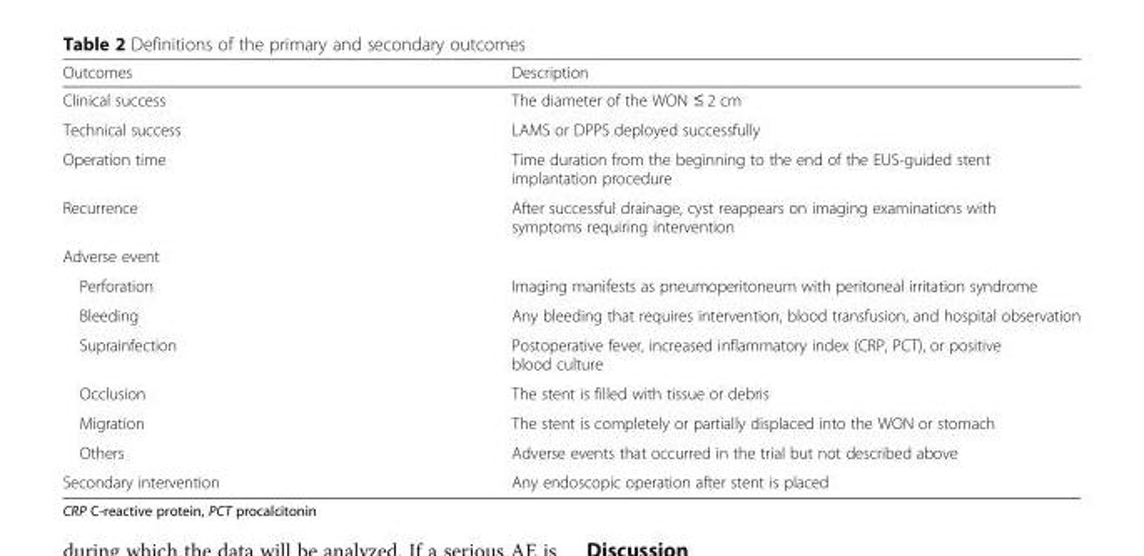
<table><thead><tr><td>Outcomes</td><td>Description</td></tr></thead><tbody><tr><td>Clinical success</td><td>The diameter of the WON ≤ 2 cm</td></tr><tr><td>Technical success</td><td>LAMS or DPPS deployed successfully</td></tr><tr><td>Operation time</td><td>Time duration from the beginning to the end of the EUS-guided stent implantation procedure</td></tr><tr><td>Recurrence</td><td>After successful drainage, cyst reappears on imaging examinations with symptoms requiring intervention</td></tr><tr><td colspan="2">Adverse event</td></tr><tr><td>Perforation</td><td>Imaging manifests as pneumoperitoneum with peritoneal irritation syndrome</td></tr><tr><td>Bleeding</td><td>Any bleeding that requires intervention, blood transfusion, and hospital observation</td></tr><tr><td>Suprainfection</td><td>Postoperative fever, increased inflammatory index (CRP, PCT), or positive blood culture</td></tr><tr><td>Occlusion</td><td>The stent is filled with tissue or debris</td></tr><tr><td>Migration</td><td>The stent is completely or partially displaced into the WON or stomach</td></tr><tr><td>Others</td><td>Adverse events that occurred in the trial but not described above</td></tr><tr><td>Secondary intervention</td><td>Any endoscopic operation after stent is placed</td></tr></tbody></table>